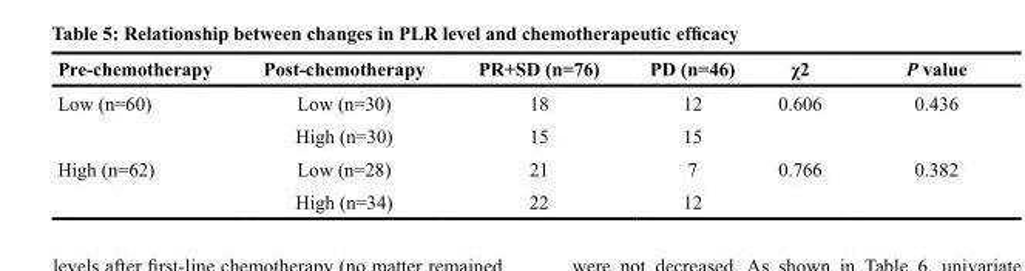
<table><thead><tr><td>Pre-chemotherapy</td><td>Post-chemotherapy</td><td>PR+SD (n=76)</td><td>PD (n=46)</td><td>χ2</td><td>P value</td></tr></thead><tbody><tr><td rowspan="2">Low (n=60)</td><td>Low (n=30)</td><td>18</td><td>12</td><td rowspan="2">0.606</td><td rowspan="2">0.436</td></tr><tr><td>High (n=30)</td><td>15</td><td>15</td></tr><tr><td rowspan="2">High (n=62)</td><td>Low (n=28)</td><td>21</td><td>7</td><td rowspan="2">0.766</td><td rowspan="2">0.382</td></tr><tr><td>High (n=34)</td><td>22</td><td>12</td></tr></tbody></table>